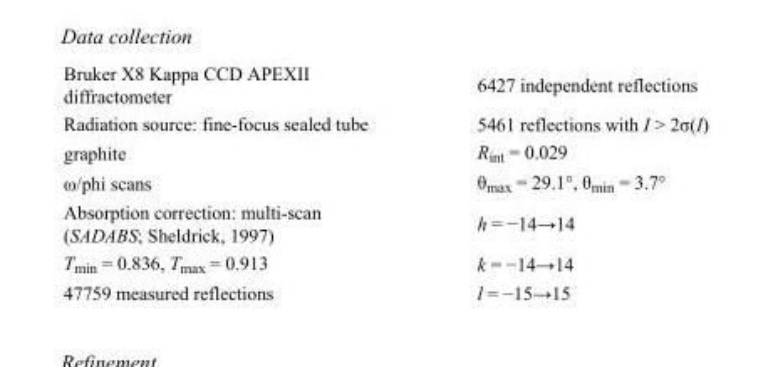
<table><tbody><tr><td>Bruker X8 Kappa CCD APEXII diffractometer</td><td>6427 independent reflections</td></tr><tr><td>Radiation source: fine-focus sealed tube</td><td>5461 reflections with I &gt; 2σ(I)</td></tr><tr><td>graphite</td><td>R<sub>int</sub> = 0.029</td></tr><tr><td>ω/phi scans</td><td>θ<sub>max</sub> = 29.1°, θ<sub>min</sub> = 3.7°</td></tr><tr><td>Absorption correction: multi-scan (SADABS; Sheldrick, 1997)</td><td>h = −14→14</td></tr><tr><td>T<sub>min</sub> = 0.836, T<sub>max</sub> = 0.913</td><td>k = −14→14</td></tr><tr><td>47759 measured reflections</td><td>l = −15→15</td></tr></tbody></table>